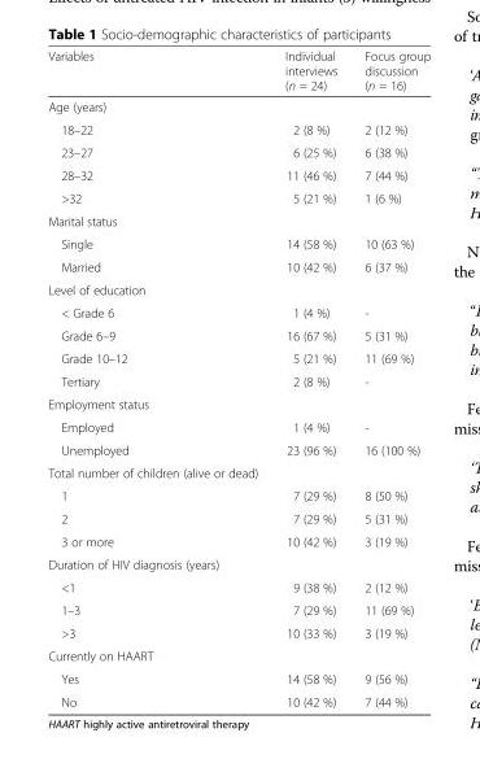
<table><thead><tr><td>Variables</td><td>Individual interviews (n = 24)</td><td>Focus group discussion (n = 16)</td></tr></thead><tbody><tr><td colspan="3">Age (years)</td></tr><tr><td>18–22</td><td>2 (8 %)</td><td>2 (12 %)</td></tr><tr><td>23–27</td><td>6 (25 %)</td><td>6 (38 %)</td></tr><tr><td>28–32</td><td>11 (46 %)</td><td>7 (44 %)</td></tr><tr><td>&gt;32</td><td>5 (21 %)</td><td>1 (6 %)</td></tr><tr><td colspan="3">Marital status</td></tr><tr><td>Single</td><td>14 (58 %)</td><td>10 (63 %)</td></tr><tr><td>Married</td><td>10 (42 %)</td><td>6 (37 %)</td></tr><tr><td colspan="3">Level of education</td></tr><tr><td>&lt; Grade 6</td><td>1 (4 %)</td><td>-</td></tr><tr><td>Grade 6–9</td><td>16 (67 %)</td><td>5 (31 %)</td></tr><tr><td>Grade 10–12</td><td>5 (21 %)</td><td>11 (69 %)</td></tr><tr><td>Tertiary</td><td>2 (8 %)</td><td>-</td></tr><tr><td colspan="3">Employment status</td></tr><tr><td>Employed</td><td>1 (4 %)</td><td>-</td></tr><tr><td>Unemployed</td><td>23 (96 %)</td><td>16 (100 %)</td></tr><tr><td colspan="3">Total number of children (alive or dead)</td></tr><tr><td>1</td><td>7 (29 %)</td><td>8 (50 %)</td></tr><tr><td>2</td><td>7 (29 %)</td><td>5 (31 %)</td></tr><tr><td>3 or more</td><td>10 (42 %)</td><td>3 (19 %)</td></tr><tr><td colspan="3">Duration of HIV diagnosis (years)</td></tr><tr><td>&lt;1</td><td>9 (38 %)</td><td>2 (12 %)</td></tr><tr><td>1–3</td><td>7 (29 %)</td><td>11 (69 %)</td></tr><tr><td>&gt;3</td><td>10 (33 %)</td><td>3 (19 %)</td></tr><tr><td colspan="3">Currently on HAART</td></tr><tr><td>Yes</td><td>14 (58 %)</td><td>9 (56 %)</td></tr><tr><td>No</td><td>10 (42 %)</td><td>7 (44 %)</td></tr></tbody></table>